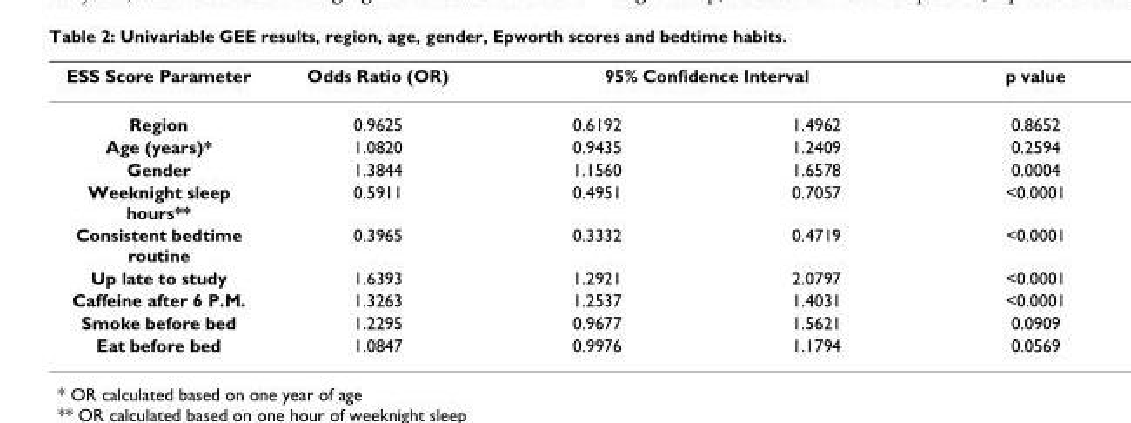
<table><thead><tr><td rowspan="2">ESS Score Parameter Region</td><td rowspan="2">Odds Ratio (OR) 0.9625</td><td colspan="2">95% Confidence Interval</td><td rowspan="2">p value 0.8652</td></tr><tr><td>0.6192</td><td>1.4962</td></tr></thead><tbody><tr><td>Age (years)*</td><td>1.0820</td><td>0.9435</td><td>1.2409</td><td>0.2594</td></tr><tr><td>Gender</td><td>1.3844</td><td>1.1560</td><td>1.6578</td><td>0.0004</td></tr><tr><td>Weeknight sleep hours**</td><td>0.5911</td><td>0.4951</td><td>0.7057</td><td>&lt;0.0001</td></tr><tr><td>Consistent bedtime routine</td><td>0.3965</td><td>0.3332</td><td>0.4719</td><td>&lt;0.0001</td></tr><tr><td>Up late to study</td><td>1.6393</td><td>1.2921</td><td>2.0797</td><td>&lt;0.0001</td></tr><tr><td>Caffeine after 6 P.M.</td><td>1.3263</td><td>1.2537</td><td>1.4031</td><td>&lt;0.0001</td></tr><tr><td>Smoke before bed</td><td>1.2295</td><td>0.9677</td><td>1.5621</td><td>0.0909</td></tr><tr><td>Eat before bed</td><td>1.0847</td><td>0.9976</td><td>1.1794</td><td>0.0569</td></tr></tbody></table>